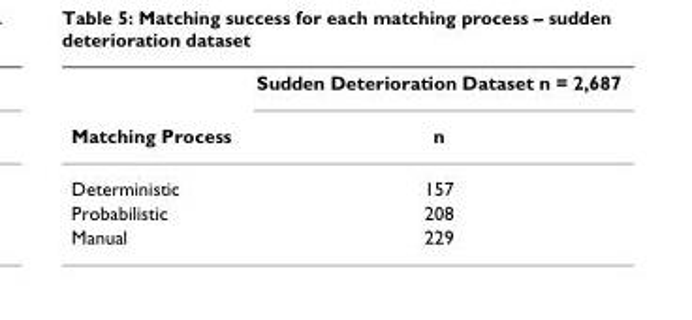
<table><thead><tr><td rowspan="2">Matching Process</td><td rowspan="2">Sudden Deterioration Dataset n = 2,687 n</td></tr><tr></tr></thead><tbody><tr><td>Deterministic</td><td>157</td></tr><tr><td>Probabilistic</td><td>208</td></tr><tr><td>Manual</td><td>229</td></tr></tbody></table>